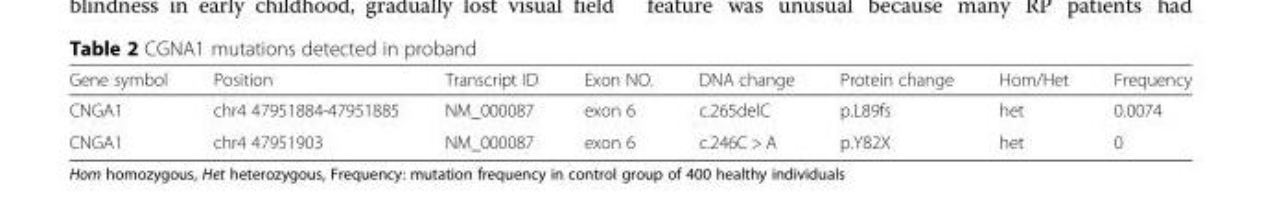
<table><thead><tr><td>Gene symbol</td><td>Position</td><td>Transcript ID</td><td>Exon NO.</td><td>DNA change</td><td>Protein change</td><td>Hom/Het</td><td>Frequency</td></tr></thead><tbody><tr><td>CNGA1</td><td>chr4 47951884-47951885</td><td>NM_000087</td><td>exon 6</td><td>c.265delC</td><td>p.L89fs</td><td>het</td><td>0.0074</td></tr><tr><td>CNGA1</td><td>chr4 47951903</td><td>NM_000087</td><td>exon 6</td><td>c.246C &gt; A</td><td>p.Y82X</td><td>het</td><td>0</td></tr></tbody></table>